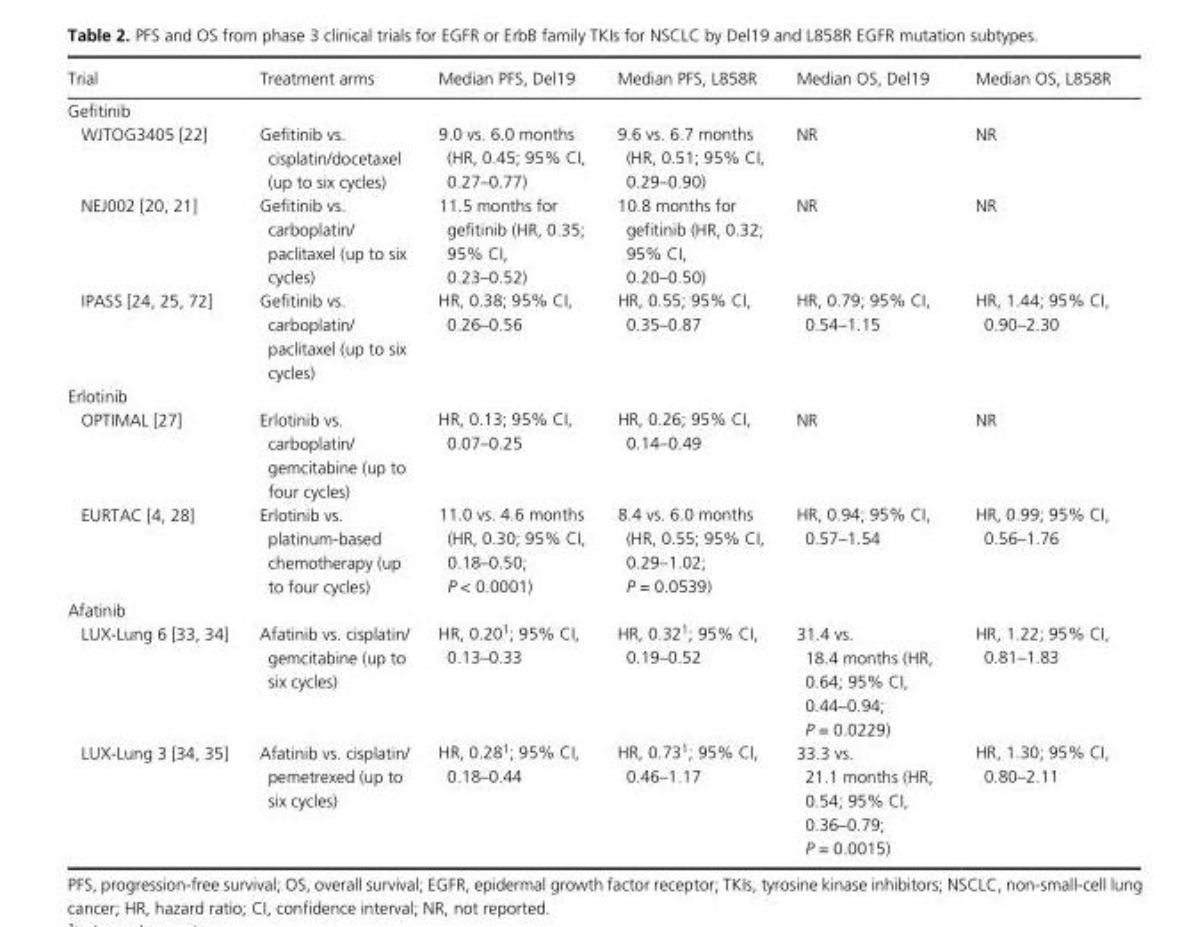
<table><thead><tr><td>Trial</td><td>Treatment arms</td><td>Median PFS, Del19</td><td>Median PFS, L858R</td><td>Median OS, Del19</td><td>Median OS, L858R</td></tr></thead><tbody><tr><td colspan="6">Gefitinib</td></tr><tr><td>WJTOG3405 [22]</td><td>Gefitinib vs. cisplatin/docetaxel (up to six cycles)</td><td>9.0 vs. 6.0 months (HR, 0.45; 95% CI, 0.27–0.77)</td><td>9.6 vs. 6.7 months (HR, 0.51; 95% CI, 0.29–0.90)</td><td>NR</td><td>NR</td></tr><tr><td>NEJ002 [20, 21]</td><td>Gefitinib vs. carboplatin/ paclitaxel (up to six cycles)</td><td>11.5 months for gefitinib (HR, 0.35; 95% CI, 0.23–0.52)</td><td>10.8 months for gefitinib (HR, 0.32; 95% CI, 0.20–0.50)</td><td>NR</td><td>NR</td></tr><tr><td>IPASS [24, 25, 72]</td><td>Gefitinib vs. carboplatin/ paclitaxel (up to six cycles)</td><td>HR, 0.38; 95% CI, 0.26–0.56</td><td>HR, 0.55; 95% CI, 0.35–0.87</td><td>HR, 0.79; 95% CI, 0.54–1.15</td><td>HR, 1.44; 95% CI, 0.90–2.30</td></tr><tr><td colspan="6">Erlotinib</td></tr><tr><td>OPTIMAL [27]</td><td>Erlotinib vs. carboplatin/ gemcitabine (up to four cycles)</td><td>HR, 0.13; 95% CI, 0.07–0.25</td><td>HR, 0.26; 95% CI, 0.14–0.49</td><td>NR</td><td>NR</td></tr><tr><td>EURTAC [4, 28]</td><td>Erlotinib vs. platinum- based chemotherapy (up to four cycles)</td><td>11.0 vs. 4.6 months (HR, 0.30; 95% CI, 0.18–0.50; P &lt; 0.0001)</td><td>8.4 vs. 6.0 months (HR, 0.55; 95% CI, 0.29–1.02; P = 0.0539)</td><td>HR, 0.94; 95% CI, 0.57–1.54</td><td>HR, 0.99; 95% CI, 0.56–1.76</td></tr><tr><td colspan="6">Afatinib</td></tr><tr><td>LUX- Lung 6 [33, 34]</td><td>Afatinib vs. cisplatin/ gemcitabine (up to six cycles)</td><td>HR, 0.20<sup>1</sup>; 95% CI, 0.13–0.33</td><td>HR, 0.32<sup>1</sup>; 95% CI, 0.19–0.52</td><td>31.4 vs. 18.4 months (HR, 0.64; 95% CI, 0.44–0.94; P = 0.0229)</td><td>HR, 1.22; 95% CI, 0.81–1.83</td></tr><tr><td>LUX- Lung 3 [34, 35]</td><td>Afatinib vs. cisplatin/ pemetrexed (up to six cycles)</td><td>HR, 0.28<sup>1</sup>; 95% CI, 0.18–0.44</td><td>HR, 0.73<sup>1</sup>; 95% CI, 0.46–1.17</td><td>33.3 vs. 21.1 months (HR, 0.54; 95% CI, 0.36–0.79; P = 0.0015)</td><td>HR, 1.30; 95% CI, 0.80–2.11</td></tr></tbody></table>